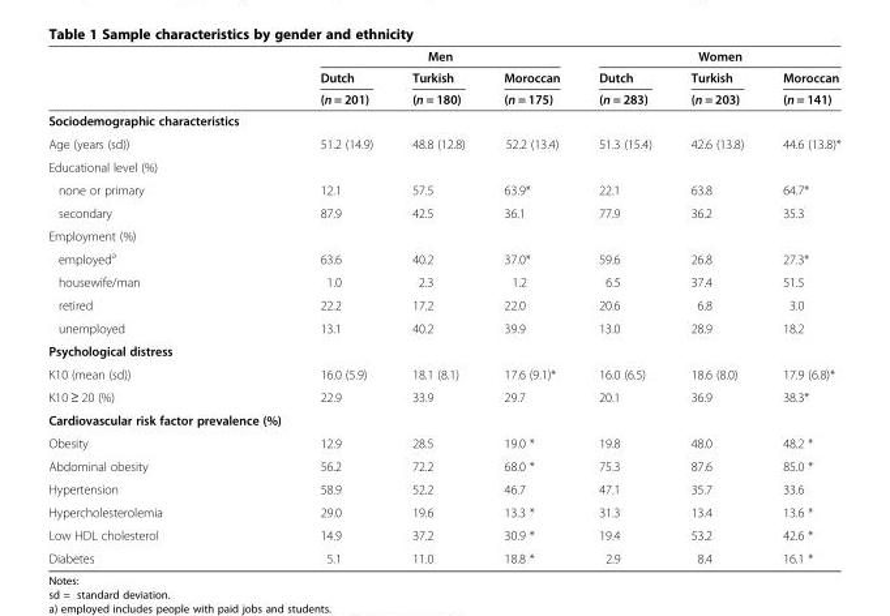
<table><thead><tr><td rowspan="3"></td><td colspan="3">Men</td><td colspan="3">Women</td></tr><tr><td rowspan="2">Dutch (n = 201)</td><td rowspan="2">Turkish (n = 180)</td><td rowspan="2">Moroccan (n = 175)</td><td rowspan="2">Dutch (n = 283)</td><td rowspan="2">Turkish (n = 203)</td><td rowspan="2">Moroccan (n = 141)</td></tr><tr></tr></thead><tbody><tr><td colspan="7">Sociodemographic characteristics</td></tr><tr><td>Age (years (sd))</td><td>51.2 (14.9)</td><td>48.8 (12.8)</td><td>52.2 (13.4)</td><td>51.3 (15.4)</td><td>42.6 (13.8)</td><td>44.6 (13.8)*</td></tr><tr><td colspan="7">Educational level (%)</td></tr><tr><td>none or primary</td><td>12.1</td><td>57.5</td><td>63.9*</td><td>22.1</td><td>63.8</td><td>64.7*</td></tr><tr><td>secondary</td><td>87.9</td><td>42.5</td><td>36.1</td><td>77.9</td><td>36.2</td><td>35.3</td></tr><tr><td colspan="7">Employment (%)</td></tr><tr><td>employed<sup>a</sup></td><td>63.6</td><td>40.2</td><td>37.0*</td><td>59.6</td><td>26.8</td><td>27.3*</td></tr><tr><td>housewife/man</td><td>1.0</td><td>2.3</td><td>1.2</td><td>6.5</td><td>37.4</td><td>51.5</td></tr><tr><td>retired</td><td>22.2</td><td>17.2</td><td>22.0</td><td>20.6</td><td>6.8</td><td>3.0</td></tr><tr><td>unemployed</td><td>13.1</td><td>40.2</td><td>39.9</td><td>13.0</td><td>28.9</td><td>18.2</td></tr><tr><td colspan="7">Psychological distress</td></tr><tr><td>K10 (mean (sd))</td><td>16.0 (5.9)</td><td>18.1 (8.1)</td><td>17.6 (9.1)*</td><td>16.0 (6.5)</td><td>18.6 (8.0)</td><td>17.9 (6.8)*</td></tr><tr><td>K10 ≥ 20 (%)</td><td>22.9</td><td>33.9</td><td>29.7</td><td>20.1</td><td>36.9</td><td>38.3*</td></tr><tr><td colspan="7">Cardiovascular risk factor prevalence (%)</td></tr><tr><td>Obesity</td><td>12.9</td><td>28.5</td><td>19.0 *</td><td>19.8</td><td>48.0</td><td>48.2 *</td></tr><tr><td>Abdominal obesity</td><td>56.2</td><td>72.2</td><td>68.0 *</td><td>75.3</td><td>87.6</td><td>85.0 *</td></tr><tr><td>Hypertension</td><td>58.9</td><td>52.2</td><td>46.7</td><td>47.1</td><td>35.7</td><td>33.6</td></tr><tr><td>Hypercholesterolemia</td><td>29.0</td><td>19.6</td><td>13.3 *</td><td>31.3</td><td>13.4</td><td>13.6 *</td></tr><tr><td>Low HDL cholesterol</td><td>14.9</td><td>37.2</td><td>30.9 *</td><td>19.4</td><td>53.2</td><td>42.6 *</td></tr><tr><td>Diabetes</td><td>5.1</td><td>11.0</td><td>18.8 *</td><td>2.9</td><td>8.4</td><td>16.1 *</td></tr></tbody></table>